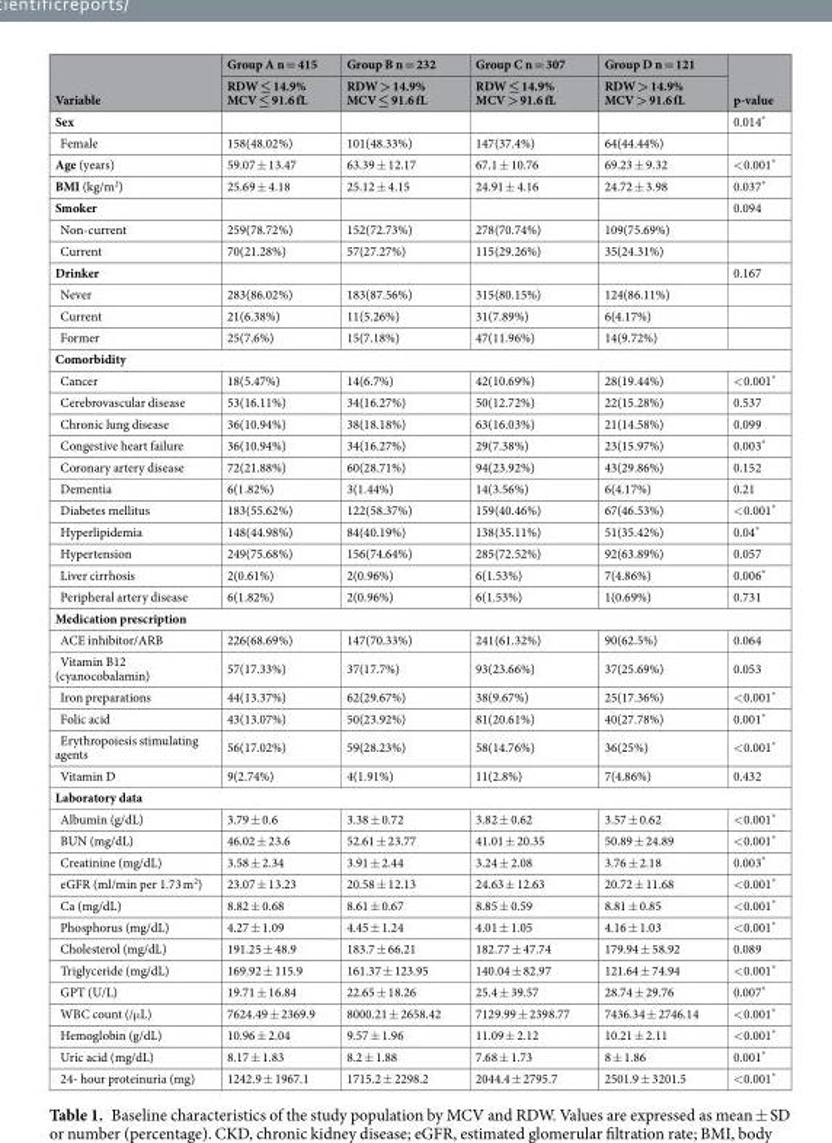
<table><thead><tr><td rowspan="2">Variable</td><td rowspan="2">Group A n = 415 RDW ≤ 14.9% MCV ≤ 91.6 fL</td><td rowspan="2">Group B n = 232 RDW &gt; 14.9% MCV ≤ 91.6 fL</td><td rowspan="2">Group C n = 307 RDW ≤ 14.9% MCV &gt; 91.6 fL</td><td rowspan="2">Group D n = 121 RDW &gt; 14.9% MCV &gt; 91.6 fL</td><td rowspan="2">p-value</td></tr><tr></tr></thead><tbody><tr><td>Sex</td><td></td><td></td><td></td><td></td><td>0.014*</td></tr><tr><td>Female</td><td>158(48.02%)</td><td>101(48.33%)</td><td>147(37.4%)</td><td>64(44.44%)</td><td></td></tr><tr><td>Age (years)</td><td>59.07 ± 13.47</td><td>63.39 ± 12.17</td><td>67.1 ± 10.76</td><td>69.23 ± 9.32</td><td>&lt;0.001*</td></tr><tr><td>BMI (kg/m<sup>2</sup>)</td><td>25.69 ± 4.18</td><td>25.12 ± 4.15</td><td>24.91 ± 4.16</td><td>24.72 ± 3.98</td><td>0.037*</td></tr><tr><td>Smoker</td><td></td><td></td><td></td><td></td><td>0.094</td></tr><tr><td>Non-current</td><td>259(78.72%)</td><td>152(72.73%)</td><td>278(70.74%)</td><td>109(75.69%)</td><td></td></tr><tr><td>Current</td><td>70(21.28%)</td><td>57(27.27%)</td><td>115(29.26%)</td><td>35(24.31%)</td><td></td></tr><tr><td>Drinker</td><td></td><td></td><td></td><td></td><td>0.167</td></tr><tr><td>Never</td><td>283(86.02%)</td><td>183(87.56%)</td><td>315(80.15%)</td><td>124(86.11%)</td><td></td></tr><tr><td>Current</td><td>21(6.38%)</td><td>11(5.26%)</td><td>31(7.89%)</td><td>6(4.17%)</td><td></td></tr><tr><td>Former</td><td>25(7.6%)</td><td>15(7.18%)</td><td>47(11.96%)</td><td>14(9.72%)</td><td></td></tr><tr><td colspan="6">Comorbidity</td></tr><tr><td>Cancer</td><td>18(5.47%)</td><td>14(6.7%)</td><td>42(10.69%)</td><td>28(19.44%)</td><td>&lt;0.001*</td></tr><tr><td>Cerebrovascular disease</td><td>53(16.11%)</td><td>34(16.27%)</td><td>50(12.72%)</td><td>22(15.28%)</td><td>0.537</td></tr><tr><td>Chronic lung disease</td><td>36(10.94%)</td><td>38(18.18%)</td><td>63(16.03%)</td><td>21(14.58%)</td><td>0.099</td></tr><tr><td>Congestive heart failure</td><td>36(10.94%)</td><td>34(16.27%)</td><td>29(7.38%)</td><td>23(15.97%)</td><td>0.003*</td></tr><tr><td>Coronary artery disease</td><td>72(21.88%)</td><td>60(28.71%)</td><td>94(23.92%)</td><td>43(29.86%)</td><td>0.152</td></tr><tr><td>Dementia</td><td>6(1.82%)</td><td>3(1.44%)</td><td>14(3.56%)</td><td>6(4.17%)</td><td>0.21</td></tr><tr><td>Diabetes mellitus</td><td>183(55.62%)</td><td>122(58.37%)</td><td>159(40.46%)</td><td>67(46.53%)</td><td>&lt;0.001*</td></tr><tr><td>Hyperlipidemia</td><td>148(44.98%)</td><td>84(40.19%)</td><td>138(35.11%)</td><td>51(35.42%)</td><td>0.04*</td></tr><tr><td>Hypertension</td><td>249(75.68%)</td><td>156(74.64%)</td><td>285(72.52%)</td><td>92(63.89%)</td><td>0.057</td></tr><tr><td>Liver cirrhosis</td><td>2(0.61%)</td><td>2(0.96%)</td><td>6(1.53%)</td><td>7(4.86%)</td><td>0.006*</td></tr><tr><td>Peripheral artery disease</td><td>6(1.82%)</td><td>2(0.96%)</td><td>6(1.53%)</td><td>1(0.69%)</td><td>0.731</td></tr><tr><td colspan="6">Medication prescription</td></tr><tr><td>ACE inhibitor/ARB</td><td>226(68.69%)</td><td>147(70.33%)</td><td>241(61.32%)</td><td>90(62.5%)</td><td>0.064</td></tr><tr><td>Vitamin B12 (cyanocobalamin)</td><td>57(17.33%)</td><td>37(17.7%)</td><td>93(23.66%)</td><td>37(25.69%)</td><td>0.053</td></tr><tr><td>Iron preparations</td><td>44(13.37%)</td><td>62(29.67%)</td><td>38(9.67%)</td><td>25(17.36%)</td><td>&lt;0.001*</td></tr><tr><td>Folic acid</td><td>43(13.07%)</td><td>50(23.92%)</td><td>81(20.61%)</td><td>40(27.78%)</td><td>0.001*</td></tr><tr><td>Erythropoiesis stimulating agents</td><td>56(17.02%)</td><td>59(28.23%)</td><td>58(14.76%)</td><td>36(25%)</td><td>&lt;0.001*</td></tr><tr><td>Vitamin D</td><td>9(2.74%)</td><td>4(1.91%)</td><td>11(2.8%)</td><td>7(4.86%)</td><td>0.432</td></tr><tr><td colspan="6">Laboratory data</td></tr><tr><td>Albumin (g/dL)</td><td>3.79 ± 0.6</td><td>3.38 ± 0.72</td><td>3.82 ± 0.62</td><td>3.57 ± 0.62</td><td>&lt;0.001*</td></tr><tr><td>BUN (mg/dL)</td><td>46.02 ± 23.6</td><td>52.61 ± 23.77</td><td>41.01 ± 20.35</td><td>50.89 ± 24.89</td><td>&lt;0.001*</td></tr><tr><td>Creatinine (mg/dL)</td><td>3.58 ± 2.34</td><td>3.91 ± 2.44</td><td>3.24 ± 2.08</td><td>3.76 ± 2.18</td><td>0.003*</td></tr><tr><td>eGFR (ml/min per 1.73 m<sup>2</sup>)</td><td>23.07 ± 13.23</td><td>20.58 ± 12.13</td><td>24.63 ± 12.63</td><td>20.72 ± 11.68</td><td>&lt;0.001*</td></tr><tr><td>Ca (mg/dL)</td><td>8.82 ± 0.68</td><td>8.61 ± 0.67</td><td>8.85 ± 0.59</td><td>8.81 ± 0.85</td><td>&lt;0.001*</td></tr><tr><td>Phosphorus (mg/dL)</td><td>4.27 ± 1.09</td><td>4.45 ± 1.24</td><td>4.01 ± 1.05</td><td>4.16 ± 1.03</td><td>&lt;0.001*</td></tr><tr><td>Cholesterol (mg/dL)</td><td>191.25 ± 48.9</td><td>183.7 ± 66.21</td><td>182.77 ± 47.74</td><td>179.94 ± 58.92</td><td>0.089</td></tr><tr><td>Triglyceride (mg/dL)</td><td>169.92 ± 115.9</td><td>161.37 ± 123.95</td><td>140.04 ± 82.97</td><td>121.64 ± 74.94</td><td>&lt;0.001*</td></tr><tr><td>GPT (U/L)</td><td>19.71 ± 16.84</td><td>22.65 ± 18.26</td><td>25.4 ± 39.57</td><td>28.74 ± 29.76</td><td>0.007*</td></tr><tr><td>WBC count (/μL)</td><td>7624.49 ± 2369.9</td><td>8000.21 ± 2658.42</td><td>7129.99 ± 2398.77</td><td>7436.34 ± 2746.14</td><td>&lt;0.001*</td></tr><tr><td>Hemoglobin (g/dL)</td><td>10.96 ± 2.04</td><td>9.57 ± 1.96</td><td>11.09 ± 2.12</td><td>10.21 ± 2.11</td><td>&lt;0.001*</td></tr><tr><td>Uric acid (mg/dL)</td><td>8.17 ± 1.83</td><td>8.2 ± 1.88</td><td>7.68 ± 1.73</td><td>8 ± 1.86</td><td>0.001*</td></tr><tr><td>24- hour proteinuria (mg)</td><td>1242.9 ± 1967.1</td><td>1715.2 ± 2298.2</td><td>2044.4 ± 2795.7</td><td>2501.9 ± 3201.5</td><td>&lt;0.001*</td></tr></tbody></table>